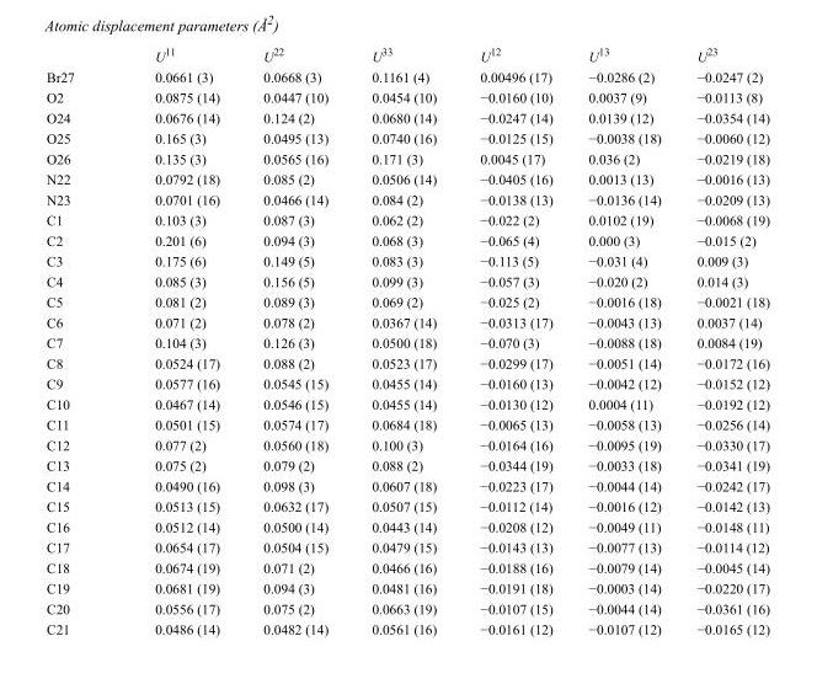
<table><thead><tr><td></td><td>U<sup>11</sup></td><td>U<sup>22</sup></td><td>U<sup>33</sup></td><td>U<sup>12</sup></td><td>U<sup>13</sup></td><td>U<sup>23</sup></td></tr></thead><tbody><tr><td>Br27</td><td>0.0661 (3)</td><td>0.0668 (3)</td><td>0.1161 (4)</td><td>0.00496 (17)</td><td>−0.0286 (2)</td><td>−0.0247 (2)</td></tr><tr><td>O2</td><td>0.0875 (14)</td><td>0.0447 (10)</td><td>0.0454 (10)</td><td>−0.0160 (10)</td><td>0.0037 (9)</td><td>−0.0113 (8)</td></tr><tr><td>O24</td><td>0.0676 (14)</td><td>0.124 (2)</td><td>0.0680 (14)</td><td>−0.0247 (14)</td><td>0.0139 (12)</td><td>−0.0354 (14)</td></tr><tr><td>O25</td><td>0.165 (3)</td><td>0.0495 (13)</td><td>0.0740 (16)</td><td>−0.0125 (15)</td><td>−0.0038 (18)</td><td>−0.0060 (12)</td></tr><tr><td>O26</td><td>0.135 (3)</td><td>0.0565 (16)</td><td>0.171 (3)</td><td>0.0045 (17)</td><td>0.036 (2)</td><td>−0.0219 (18)</td></tr><tr><td>N22</td><td>0.0792 (18)</td><td>0.085 (2)</td><td>0.0506 (14)</td><td>−0.0405 (16)</td><td>0.0013 (13)</td><td>−0.0016 (13)</td></tr><tr><td>N23</td><td>0.0701 (16)</td><td>0.0466 (14)</td><td>0.084 (2)</td><td>−0.0138 (13)</td><td>−0.0136 (14)</td><td>−0.0209 (13)</td></tr><tr><td>C1</td><td>0.103 (3)</td><td>0.087 (3)</td><td>0.062 (2)</td><td>−0.022 (2)</td><td>0.0102 (19)</td><td>−0.0068 (19)</td></tr><tr><td>C2</td><td>0.201 (6)</td><td>0.094 (3)</td><td>0.068 (3)</td><td>−0.065 (4)</td><td>0.000 (3)</td><td>−0.015 (2)</td></tr><tr><td>C3</td><td>0.175 (6)</td><td>0.149 (5)</td><td>0.083 (3)</td><td>−0.113 (5)</td><td>−0.031 (4)</td><td>0.009 (3)</td></tr><tr><td>C4</td><td>0.085 (3)</td><td>0.156 (5)</td><td>0.099 (3)</td><td>−0.057 (3)</td><td>−0.020 (2)</td><td>0.014 (3)</td></tr><tr><td>C5</td><td>0.081 (2)</td><td>0.089 (3)</td><td>0.069 (2)</td><td>−0.025 (2)</td><td>−0.0016 (18)</td><td>−0.0021 (18)</td></tr><tr><td>C6</td><td>0.071 (2)</td><td>0.078 (2)</td><td>0.0367 (14)</td><td>−0.0313 (17)</td><td>−0.0043 (13)</td><td>0.0037 (14)</td></tr><tr><td>C7</td><td>0.104 (3)</td><td>0.126 (3)</td><td>0.0500 (18)</td><td>−0.070 (3)</td><td>−0.0088 (18)</td><td>0.0084 (19)</td></tr><tr><td>C8</td><td>0.0524 (17)</td><td>0.088 (2)</td><td>0.0523 (17)</td><td>−0.0299 (17)</td><td>−0.0051 (14)</td><td>−0.0172 (16)</td></tr><tr><td>C9</td><td>0.0577 (16)</td><td>0.0545 (15)</td><td>0.0455 (14)</td><td>−0.0160 (13)</td><td>−0.0042 (12)</td><td>−0.0152 (12)</td></tr><tr><td>C10</td><td>0.0467 (14)</td><td>0.0546 (15)</td><td>0.0455 (14)</td><td>−0.0130 (12)</td><td>0.0004 (11)</td><td>−0.0192 (12)</td></tr><tr><td>C11</td><td>0.0501 (15)</td><td>0.0574 (17)</td><td>0.0684 (18)</td><td>−0.0065 (13)</td><td>−0.0058 (13)</td><td>−0.0256 (14)</td></tr><tr><td>C12</td><td>0.077 (2)</td><td>0.0560 (18)</td><td>0.100 (3)</td><td>−0.0164 (16)</td><td>−0.0095 (19)</td><td>−0.0330 (17)</td></tr><tr><td>C13</td><td>0.075 (2)</td><td>0.079 (2)</td><td>0.088 (2)</td><td>−0.0344 (19)</td><td>−0.0033 (18)</td><td>−0.0341 (19)</td></tr><tr><td>C14</td><td>0.0490 (16)</td><td>0.098 (3)</td><td>0.0607 (18)</td><td>−0.0223 (17)</td><td>−0.0044 (14)</td><td>−0.0242 (17)</td></tr><tr><td>C15</td><td>0.0513 (15)</td><td>0.0632 (17)</td><td>0.0507 (15)</td><td>−0.0112 (14)</td><td>−0.0016 (12)</td><td>−0.0142 (13)</td></tr><tr><td>C16</td><td>0.0512 (14)</td><td>0.0500 (14)</td><td>0.0443 (14)</td><td>−0.0208 (12)</td><td>−0.0049 (11)</td><td>−0.0148 (11)</td></tr><tr><td>C17</td><td>0.0654 (17)</td><td>0.0504 (15)</td><td>0.0479 (15)</td><td>−0.0143 (13)</td><td>−0.0077 (13)</td><td>−0.0114 (12)</td></tr><tr><td>C18</td><td>0.0674 (19)</td><td>0.071 (2)</td><td>0.0466 (16)</td><td>−0.0188 (16)</td><td>−0.0079 (14)</td><td>−0.0045 (14)</td></tr><tr><td>C19</td><td>0.0681 (19)</td><td>0.094 (3)</td><td>0.0481 (16)</td><td>−0.0191 (18)</td><td>−0.0003 (14)</td><td>−0.0220 (17)</td></tr><tr><td>C20</td><td>0.0556 (17)</td><td>0.075 (2)</td><td>0.0663 (19)</td><td>−0.0107 (15)</td><td>−0.0044 (14)</td><td>−0.0361 (16)</td></tr><tr><td>C21</td><td>0.0486 (14)</td><td>0.0482 (14)</td><td>0.0561 (16)</td><td>−0.0161 (12)</td><td>−0.0107 (12)</td><td>−0.0165 (12)</td></tr></tbody></table>